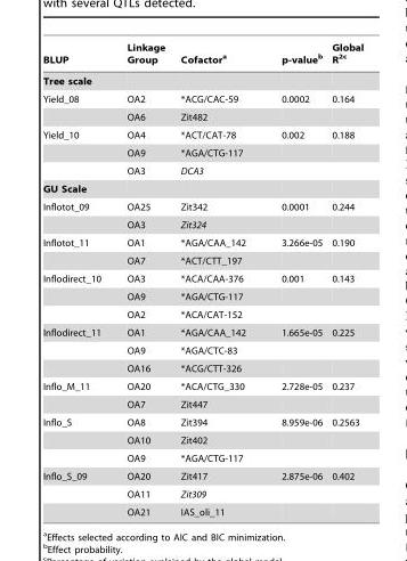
<table><thead><tr><td>BLUP</td><td>Linkage Group</td><td>Cofactor<sup>a</sup></td><td>p-value<sup>b</sup></td><td>Global R<sup>2</sup>c</td></tr></thead><tbody><tr><td colspan="5">Tree scale</td></tr><tr><td rowspan="2">Yield_08</td><td>OA2</td><td>*ACG/CAC-59</td><td>0.0002</td><td>0.164</td></tr><tr><td>OA6</td><td>Zit482</td><td></td><td></td></tr><tr><td rowspan="3">Yield_10</td><td>OA4</td><td>*ACT/CAT-78</td><td>0.002</td><td>0.188</td></tr><tr><td>OA9</td><td>*AGA/CTG-117</td><td></td><td></td></tr><tr><td>OA3</td><td>DCA3</td><td></td><td></td></tr><tr><td colspan="5">GU Scale</td></tr><tr><td rowspan="2">Inflotot_09</td><td>OA25</td><td>Zit342</td><td>0.0001</td><td>0.244</td></tr><tr><td>OA3</td><td>Zit324</td><td></td><td></td></tr><tr><td rowspan="2">Inflotot_11</td><td>OA1</td><td>*AGA/CAA_142</td><td>3.266e-05</td><td>0.190</td></tr><tr><td>OA7</td><td>*ACT/CTT_197</td><td></td><td></td></tr><tr><td rowspan="3">Inflodirect_10</td><td>OA3</td><td>*ACA/CAA-376</td><td>0.001</td><td>0.143</td></tr><tr><td>OA9</td><td>*AGA/CTG-117</td><td></td><td></td></tr><tr><td>OA2</td><td>*ACA/CAT-152</td><td></td><td></td></tr><tr><td rowspan="3">Inflodirect_11</td><td>OA1</td><td>*AGA/CAA_142</td><td>1.665e-05</td><td>0.225</td></tr><tr><td>OA9</td><td>*AGA/CTC-83</td><td></td><td></td></tr><tr><td>OA16</td><td>*ACG/CTT-326</td><td></td><td></td></tr><tr><td rowspan="2">Inflo_M_11</td><td>OA20</td><td>*ACA/CTG_330</td><td>2.728e-05</td><td>0.237</td></tr><tr><td>OA7</td><td>Zit447</td><td></td><td></td></tr><tr><td rowspan="3">Inflo_S</td><td>OA8</td><td>Zit394</td><td>8.959e-06</td><td>0.2563</td></tr><tr><td>OA10</td><td>Zit402</td><td></td><td></td></tr><tr><td>OA9</td><td>*AGA/CTG-117</td><td></td><td></td></tr><tr><td rowspan="3">Inflo_S_09</td><td>OA20</td><td>Zit417</td><td>2.875e-06</td><td>0.402</td></tr><tr><td>OA11</td><td>Zit309</td><td></td><td></td></tr><tr><td>OA21</td><td>IAS_oli_11</td><td></td><td></td></tr></tbody></table>